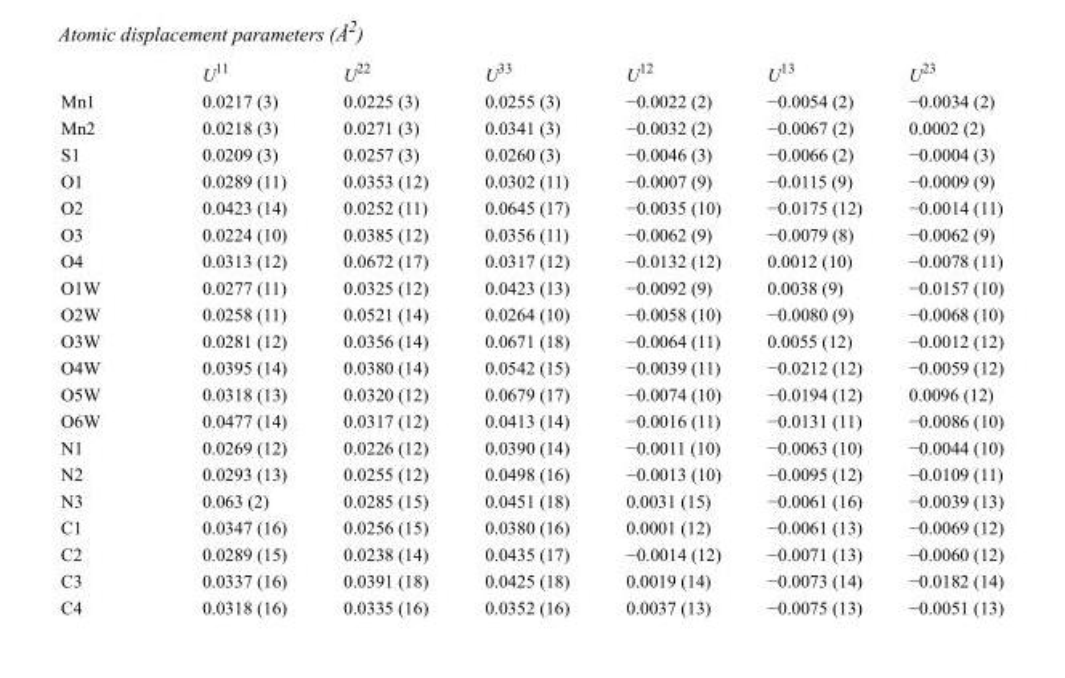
<table><thead><tr><td></td><td>U<sup>11</sup></td><td>U<sup>22</sup></td><td>U<sup>33</sup></td><td>U<sup>12</sup></td><td>U<sup>13</sup></td><td>U<sup>23</sup></td></tr></thead><tbody><tr><td>Mn1</td><td>0.0217 (3)</td><td>0.0225 (3)</td><td>0.0255 (3)</td><td>−0.0022 (2)</td><td>−0.0054 (2)</td><td>−0.0034 (2)</td></tr><tr><td>Mn2</td><td>0.0218 (3)</td><td>0.0271 (3)</td><td>0.0341 (3)</td><td>−0.0032 (2)</td><td>−0.0067 (2)</td><td>0.0002 (2)</td></tr><tr><td>S1</td><td>0.0209 (3)</td><td>0.0257 (3)</td><td>0.0260 (3)</td><td>−0.0046 (3)</td><td>−0.0066 (2)</td><td>−0.0004 (3)</td></tr><tr><td>O1</td><td>0.0289 (11)</td><td>0.0353 (12)</td><td>0.0302 (11)</td><td>−0.0007 (9)</td><td>−0.0115 (9)</td><td>−0.0009 (9)</td></tr><tr><td>O2</td><td>0.0423 (14)</td><td>0.0252 (11)</td><td>0.0645 (17)</td><td>−0.0035 (10)</td><td>−0.0175 (12)</td><td>−0.0014 (11)</td></tr><tr><td>O3</td><td>0.0224 (10)</td><td>0.0385 (12)</td><td>0.0356 (11)</td><td>−0.0062 (9)</td><td>−0.0079 (8)</td><td>−0.0062 (9)</td></tr><tr><td>O4</td><td>0.0313 (12)</td><td>0.0672 (17)</td><td>0.0317 (12)</td><td>−0.0132 (12)</td><td>0.0012 (10)</td><td>−0.0078 (11)</td></tr><tr><td>O1W</td><td>0.0277 (11)</td><td>0.0325 (12)</td><td>0.0423 (13)</td><td>−0.0092 (9)</td><td>0.0038 (9)</td><td>−0.0157 (10)</td></tr><tr><td>O2W</td><td>0.0258 (11)</td><td>0.0521 (14)</td><td>0.0264 (10)</td><td>−0.0058 (10)</td><td>−0.0080 (9)</td><td>−0.0068 (10)</td></tr><tr><td>O3W</td><td>0.0281 (12)</td><td>0.0356 (14)</td><td>0.0671 (18)</td><td>−0.0064 (11)</td><td>0.0055 (12)</td><td>−0.0012 (12)</td></tr><tr><td>O4W</td><td>0.0395 (14)</td><td>0.0380 (14)</td><td>0.0542 (15)</td><td>−0.0039 (11)</td><td>−0.0212 (12)</td><td>−0.0059 (12)</td></tr><tr><td>O5W</td><td>0.0318 (13)</td><td>0.0320 (12)</td><td>0.0679 (17)</td><td>−0.0074 (10)</td><td>−0.0194 (12)</td><td>0.0096 (12)</td></tr><tr><td>O6W</td><td>0.0477 (14)</td><td>0.0317 (12)</td><td>0.0413 (14)</td><td>−0.0016 (11)</td><td>−0.0131 (11)</td><td>−0.0086 (10)</td></tr><tr><td>N1</td><td>0.0269 (12)</td><td>0.0226 (12)</td><td>0.0390 (14)</td><td>−0.0011 (10)</td><td>−0.0063 (10)</td><td>−0.0044 (10)</td></tr><tr><td>N2</td><td>0.0293 (13)</td><td>0.0255 (12)</td><td>0.0498 (16)</td><td>−0.0013 (10)</td><td>−0.0095 (12)</td><td>−0.0109 (11)</td></tr><tr><td>N3</td><td>0.063 (2)</td><td>0.0285 (15)</td><td>0.0451 (18)</td><td>0.0031 (15)</td><td>−0.0061 (16)</td><td>−0.0039 (13)</td></tr><tr><td>C1</td><td>0.0347 (16)</td><td>0.0256 (15)</td><td>0.0380 (16)</td><td>0.0001 (12)</td><td>−0.0061 (13)</td><td>−0.0069 (12)</td></tr><tr><td>C2</td><td>0.0289 (15)</td><td>0.0238 (14)</td><td>0.0435 (17)</td><td>−0.0014 (12)</td><td>−0.0071 (13)</td><td>−0.0060 (12)</td></tr><tr><td>C3</td><td>0.0337 (16)</td><td>0.0391 (18)</td><td>0.0425 (18)</td><td>0.0019 (14)</td><td>−0.0073 (14)</td><td>−0.0182 (14)</td></tr><tr><td>C4</td><td>0.0318 (16)</td><td>0.0335 (16)</td><td>0.0352 (16)</td><td>0.0037 (13)</td><td>−0.0075 (13)</td><td>−0.0051 (13)</td></tr></tbody></table>